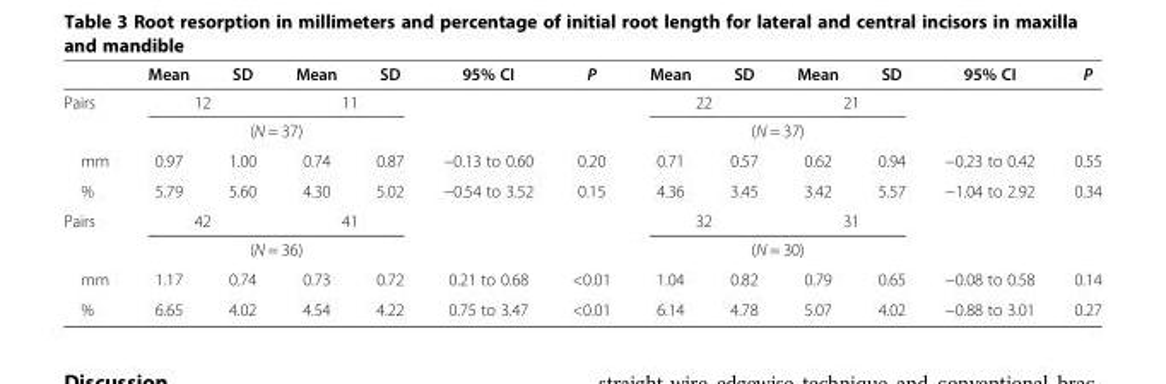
<table><thead><tr><td></td><td>Mean</td><td>SD</td><td>Mean</td><td>SD</td><td>95% CI</td><td>P</td><td>Mean</td><td>SD</td><td>Mean</td><td>SD</td><td>95% CI</td><td>P</td></tr></thead><tbody><tr><td rowspan="2">Pairs</td><td colspan="2">12</td><td colspan="2">11</td><td rowspan="2"></td><td rowspan="2"></td><td colspan="2">22</td><td colspan="2">21</td><td rowspan="2"></td><td rowspan="2"></td></tr><tr><td colspan="4">(N = 37)</td><td colspan="4">(N = 37)</td></tr><tr><td>mm</td><td>0.97</td><td>1.00</td><td>0.74</td><td>0.87</td><td>−0.13 to 0.60</td><td>0.20</td><td>0.71</td><td>0.57</td><td>0.62</td><td>0.94</td><td>−0.23 to 0.42</td><td>0.55</td></tr><tr><td>%</td><td>5.79</td><td>5.60</td><td>4.30</td><td>5.02</td><td>−0.54 to 3.52</td><td>0.15</td><td>4.36</td><td>3.45</td><td>3.42</td><td>5.57</td><td>−1.04 to 2.92</td><td>0.34</td></tr><tr><td rowspan="2">Pairs</td><td colspan="2">42</td><td colspan="2">41</td><td rowspan="2"></td><td rowspan="2"></td><td colspan="2">32</td><td colspan="2">31</td><td rowspan="2"></td><td rowspan="2"></td></tr><tr><td colspan="4">(N = 36)</td><td colspan="4">(N = 30)</td></tr><tr><td>mm</td><td>1.17</td><td>0.74</td><td>0.73</td><td>0.72</td><td>0.21 to 0.68</td><td>&lt;0.01</td><td>1.04</td><td>0.82</td><td>0.79</td><td>0.65</td><td>−0.08 to 0.58</td><td>0.14</td></tr><tr><td>%</td><td>6.65</td><td>4.02</td><td>4.54</td><td>4.22</td><td>0.75 to 3.47</td><td>&lt;0.01</td><td>6.14</td><td>4.78</td><td>5.07</td><td>4.02</td><td>−0.88 to 3.01</td><td>0.27</td></tr></tbody></table>